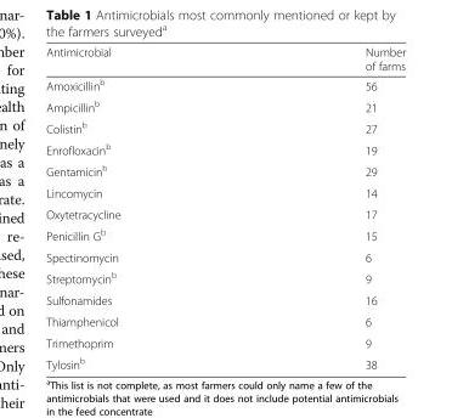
<table><thead><tr><td>Antimicrobial</td><td>Number of farms</td></tr></thead><tbody><tr><td>Amoxicillin<sup>b</sup></td><td>56</td></tr><tr><td>Ampicillin<sup>b</sup></td><td>21</td></tr><tr><td>Colistin<sup>b</sup></td><td>27</td></tr><tr><td>Enrofloxacin<sup>b</sup></td><td>19</td></tr><tr><td>Gentamicin<sup>b</sup></td><td>29</td></tr><tr><td>Lincomycin</td><td>14</td></tr><tr><td>Oxytetracycline</td><td>17</td></tr><tr><td>Penicillin G<sup>b</sup></td><td>15</td></tr><tr><td>Spectinomycin</td><td>6</td></tr><tr><td>Streptomycin<sup>b</sup></td><td>9</td></tr><tr><td>Sulfonamides</td><td>16</td></tr><tr><td>Thiamphenicol</td><td>6</td></tr><tr><td>Trimethoprim</td><td>9</td></tr><tr><td>Tylosin<sup>b</sup></td><td>38</td></tr></tbody></table>